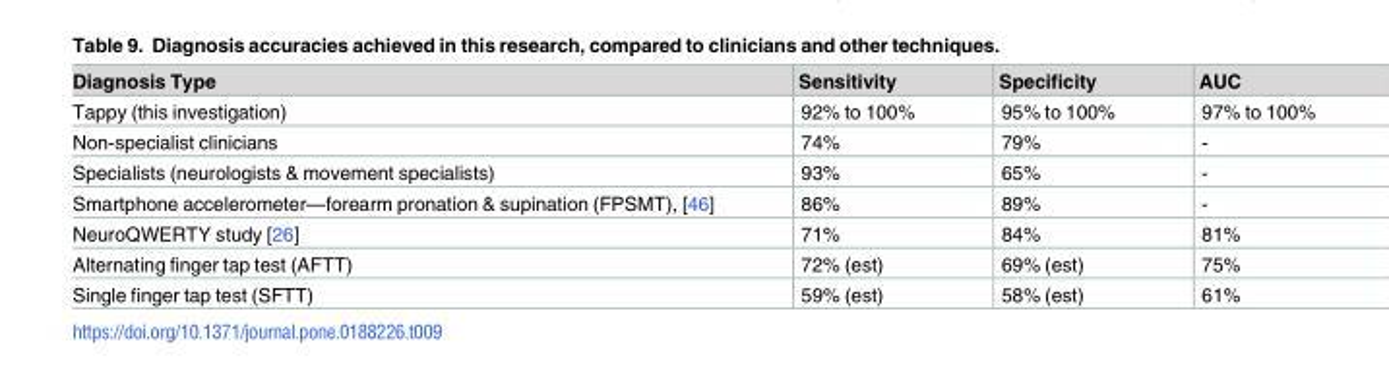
<table><thead><tr><td>Diagnosis Type</td><td>Sensitivity</td><td>Specificity</td><td>AUC</td></tr></thead><tbody><tr><td>Tappy (this investigation)</td><td>92% to 100%</td><td>95% to 100%</td><td>97% to 100%</td></tr><tr><td>Non-specialist clinicians</td><td>74%</td><td>79%</td><td>-</td></tr><tr><td>Specialists (neurologists &amp; movement specialists)</td><td>93%</td><td>65%</td><td>-</td></tr><tr><td>Smartphone accelerometer—forearm pronation &amp; supination (FPSMT), [46]</td><td>86%</td><td>89%</td><td>-</td></tr><tr><td>NeuroQWERTY study [26]</td><td>71%</td><td>84%</td><td>81%</td></tr><tr><td>Alternating finger tap test (AFTT)</td><td>72% (est)</td><td>69% (est)</td><td>75%</td></tr><tr><td>Single finger tap test (SFTT)</td><td>59% (est)</td><td>58% (est)</td><td>61%</td></tr></tbody></table>